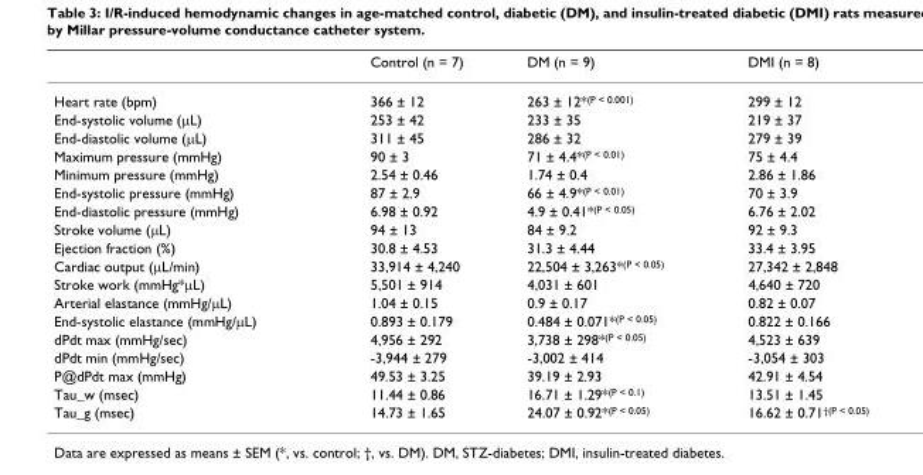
<table><thead><tr><td></td><td>Control (n = 7)</td><td>DM (n = 9)</td><td>DMI (n = 8)</td></tr></thead><tbody><tr><td>Heart rate (bpm)</td><td>366 ± 12</td><td>263 ± 12*<sup>(P &lt; 0.001)</sup></td><td>299 ± 12</td></tr><tr><td>End-systolic volume (μL)</td><td>253 ± 42</td><td>233 ± 35</td><td>219 ± 37</td></tr><tr><td>End-diastolic volume (μL)</td><td>311 ± 45</td><td>286 ± 32</td><td>279 ± 39</td></tr><tr><td>Maximum pressure (mmHg)</td><td>90 ± 3</td><td>71 ± 4.4*<sup>(P &lt; 0.01)</sup></td><td>75 ± 4.4</td></tr><tr><td>Minimum pressure (mmHg)</td><td>2.54 ± 0.46</td><td>1.74 ± 0.4</td><td>2.86 ± 1.86</td></tr><tr><td>End-systolic pressure (mmHg)</td><td>87 ± 2.9</td><td>66 ± 4.9*<sup>(P &lt; 0.01)</sup></td><td>70 ± 3.9</td></tr><tr><td>End-diastolic pressure (mmHg)</td><td>6.98 ± 0.92</td><td>4.9 ± 0.41*<sup>(P &lt; 0.05)</sup></td><td>6.76 ± 2.02</td></tr><tr><td>Stroke volume (μL)</td><td>94 ± 13</td><td>84 ± 9.2</td><td>92 ± 9.3</td></tr><tr><td>Ejection fraction (%)</td><td>30.8 ± 4.53</td><td>31.3 ± 4.44</td><td>33.4 ± 3.95</td></tr><tr><td>Cardiac output (μL/min)</td><td>33,914 ± 4,240</td><td>22,504 ± 3,263*<sup>(P &lt; 0.05)</sup></td><td>27,342 ± 2,848</td></tr><tr><td>Stroke work (mmHg*μL)</td><td>5,501 ± 914</td><td>4,031 ± 601</td><td>4,640 ± 720</td></tr><tr><td>Arterial elastance (mmHg/μL)</td><td>1.04 ± 0.15</td><td>0.9 ± 0.17</td><td>0.82 ± 0.07</td></tr><tr><td>End-systolic elastance (mmHg/μL)</td><td>0.893 ± 0.179</td><td>0.484 ± 0.071*<sup>(P &lt; 0.05)</sup></td><td>0.822 ± 0.166</td></tr><tr><td>dPdt max (mmHg/sec)</td><td>4,956 ± 292</td><td>3,738 ± 298*<sup>(P &lt; 0.05)</sup></td><td>4,523 ± 639</td></tr><tr><td>dPdt min (mmHg/sec)</td><td>-3,944 ± 279</td><td>-3,002 ± 414</td><td>-3,054 ± 303</td></tr><tr><td>P@dPdt max (mmHg)</td><td>49.53 ± 3.25</td><td>39.19 ± 2.93</td><td>42.91 ± 4.54</td></tr><tr><td>Tau_w (msec)</td><td>11.44 ± 0.86</td><td>16.71 ± 1.29*<sup>(P &lt; 0.1)</sup></td><td>13.51 ± 1.45</td></tr><tr><td>Tau_g (msec)</td><td>14.73 ± 1.65</td><td>24.07 ± 0.92*<sup>(P &lt; 0.05)</sup></td><td>16.62 ± 0.71<sup>†(P &lt; 0.05)</sup></td></tr></tbody></table>